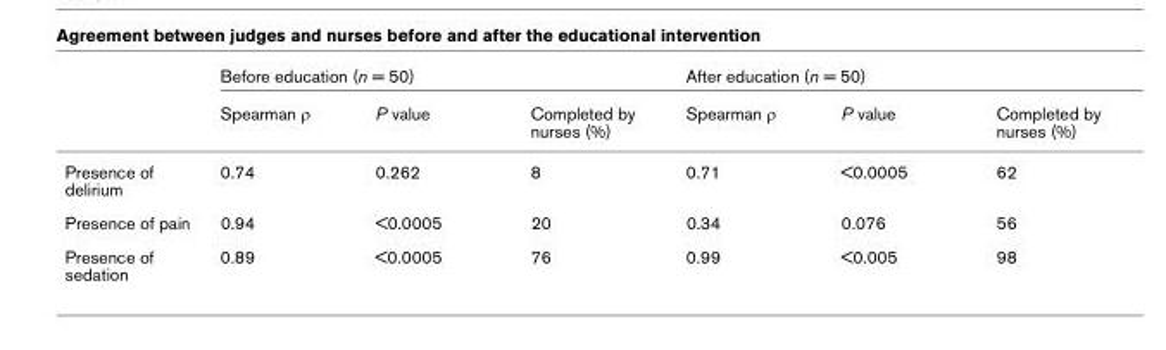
<table><thead><tr><td rowspan="2"></td><td colspan="3">Before education (n = 50)</td><td colspan="3">After education (n = 50)</td></tr><tr><td>Spearman ρ</td><td>P value</td><td>Completed by nurses (%)</td><td>Spearman ρ</td><td>P value</td><td>Completed by nurses (%)</td></tr></thead><tbody><tr><td>Presence of delirium</td><td>0.74</td><td>0.262</td><td>8</td><td>0.71</td><td>&lt;0.0005</td><td>62</td></tr><tr><td>Presence of pain</td><td>0.94</td><td>&lt;0.0005</td><td>20</td><td>0.34</td><td>0.076</td><td>56</td></tr><tr><td>Presence of sedation</td><td>0.89</td><td>&lt;0.0005</td><td>76</td><td>0.99</td><td>&lt;0.005</td><td>98</td></tr></tbody></table>